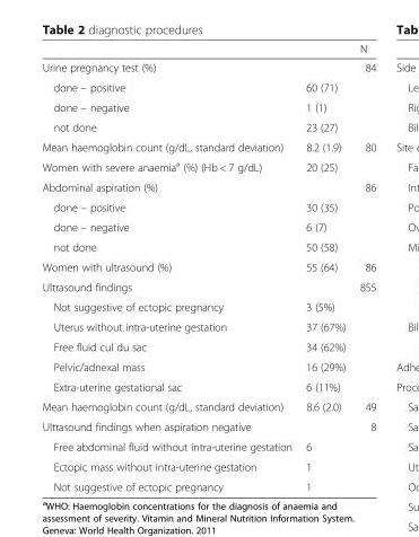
<table><thead><tr><td></td><td></td><td>N</td></tr></thead><tbody><tr><td>Urine pregnancy test (%)</td><td></td><td>84</td></tr><tr><td>done – positive</td><td>60 (71)</td><td></td></tr><tr><td>done – negative</td><td>1 (1)</td><td></td></tr><tr><td>not done</td><td>23 (27)</td><td></td></tr><tr><td>Mean haemoglobin count (g/dL, standard deviation)</td><td>8.2 (1.9)</td><td>80</td></tr><tr><td>Women with severe anaemia<sup>a</sup> (%) (Hb &lt; 7 g/dL)</td><td>20 (25)</td><td></td></tr><tr><td>Abdominal aspiration (%)</td><td></td><td>86</td></tr><tr><td>done – positive</td><td>30 (35)</td><td></td></tr><tr><td>done – negative</td><td>6 (7)</td><td></td></tr><tr><td>not done</td><td>50 (58)</td><td></td></tr><tr><td>Women with ultrasound (%)</td><td>55 (64)</td><td>86</td></tr><tr><td>Ultrasound findings</td><td></td><td>855</td></tr><tr><td>Not suggestive of ectopic pregnancy</td><td>3 (5%)</td><td></td></tr><tr><td>Uterus without intra-uterine gestation</td><td>37 (67%)</td><td></td></tr><tr><td>Free fluid cul du sac</td><td>34 (62%)</td><td></td></tr><tr><td>Pelvic/adnexal mass</td><td>16 (29%)</td><td></td></tr><tr><td>Extra-uterine gestational sac</td><td>6 (11%)</td><td></td></tr><tr><td>Mean haemoglobin count (g/dL, standard deviation)</td><td>8.6 (2.0)</td><td>49</td></tr><tr><td>Ultrasound findings when aspiration negative</td><td></td><td>8</td></tr><tr><td>Free abdominal fluid without intra-uterine gestation</td><td>6</td><td></td></tr><tr><td>Ectopic mass without intra-uterine gestation</td><td>1</td><td></td></tr><tr><td>Not suggestive of ectopic pregnancy</td><td>1</td><td></td></tr></tbody></table>